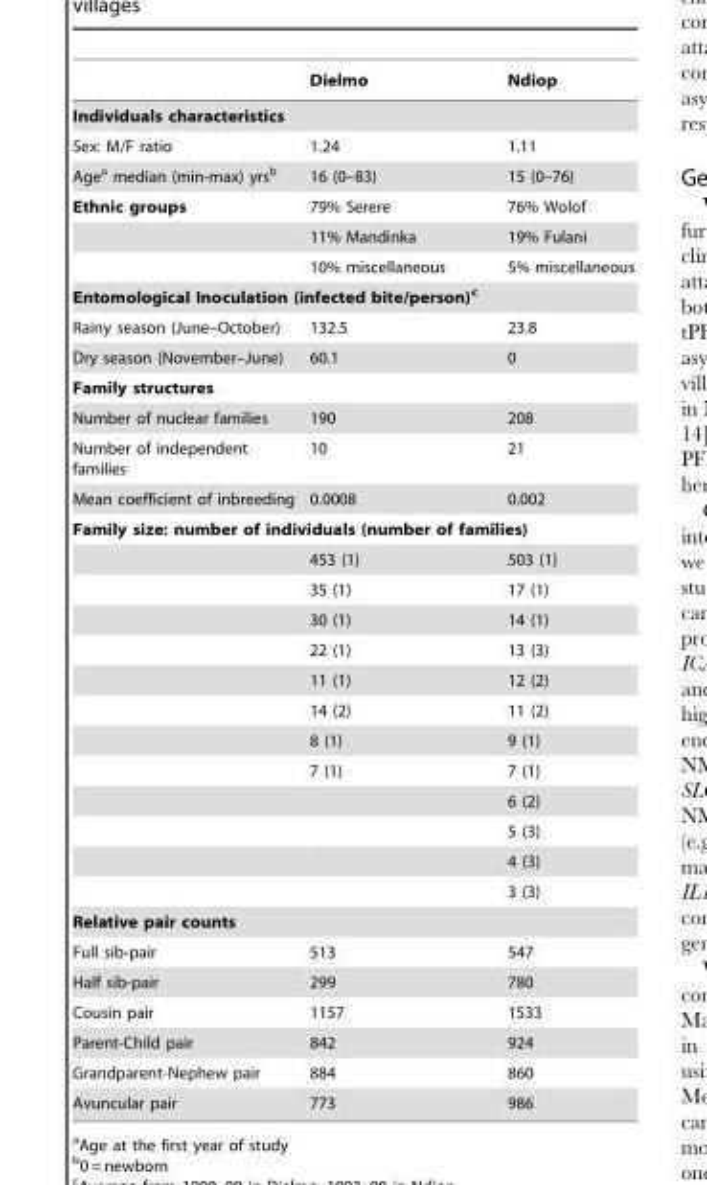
<table><thead><tr><td></td><td>Dielmo</td><td>Ndiop</td></tr></thead><tbody><tr><td colspan="3">Individuals characteristics</td></tr><tr><td>Sex: M/F ratio</td><td>1.24</td><td>1.11</td></tr><tr><td>Age<sup>a</sup> median (min-max) yrs<sup>b</sup></td><td>16 (0–83)</td><td>15 (0–76)</td></tr><tr><td rowspan="3">Ethnic groups</td><td>79% Serere</td><td>76% Wolof</td></tr><tr><td>11% Mandinka</td><td>19% Fulani</td></tr><tr><td>10% miscellaneous</td><td>5% miscellaneous</td></tr><tr><td colspan="3">Entomological Inoculation (infected bite/person)c</td></tr><tr><td>Rainy season (June–October)</td><td>132.5</td><td>23.8</td></tr><tr><td>Dry season (November–June)</td><td>60.1</td><td>0</td></tr><tr><td colspan="3">Family structures</td></tr><tr><td>Number of nuclear families</td><td>190</td><td>208</td></tr><tr><td>Number of independent families</td><td>10</td><td>21</td></tr><tr><td>Mean coefficient of inbreeding</td><td>0.0008</td><td>0.002</td></tr><tr><td colspan="3">Family size: number of individuals (number of families)</td></tr><tr><td></td><td>453 (1)</td><td>503 (1)</td></tr><tr><td></td><td>35 (1)</td><td>17 (1)</td></tr><tr><td></td><td>30 (1)</td><td>14 (1)</td></tr><tr><td></td><td>22 (1)</td><td>13 (3)</td></tr><tr><td></td><td>11 (1)</td><td>12 (2)</td></tr><tr><td></td><td>14 (2)</td><td>11 (2)</td></tr><tr><td></td><td>8 (1)</td><td>9 (1)</td></tr><tr><td></td><td>7 (1)</td><td>7 (1)</td></tr><tr><td></td><td></td><td>6 (2)</td></tr><tr><td></td><td></td><td>5 (3)</td></tr><tr><td></td><td></td><td>4 (3)</td></tr><tr><td></td><td></td><td>3 (3)</td></tr><tr><td colspan="3">Relative pair counts</td></tr><tr><td>Full sib-pair</td><td>513</td><td>547</td></tr><tr><td>Half sib-pair</td><td>299</td><td>780</td></tr><tr><td>Cousin pair</td><td>1157</td><td>1533</td></tr><tr><td>Parent-Child pair</td><td>842</td><td>924</td></tr><tr><td>Grandparent-Nephew pair</td><td>884</td><td>860</td></tr><tr><td>Avuncular pair</td><td>773</td><td>986</td></tr></tbody></table>